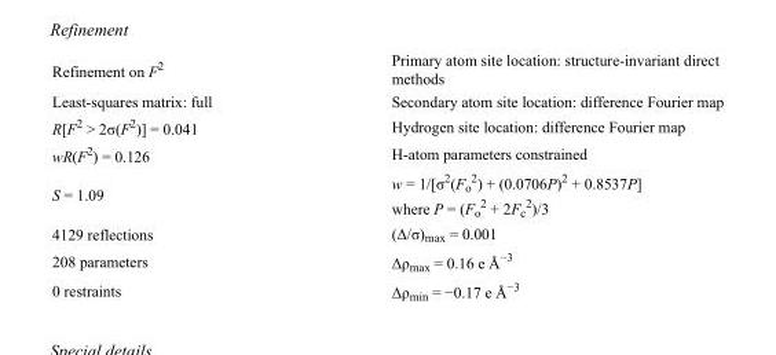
<table><tbody><tr><td>Refinement on F<sup>2</sup></td><td>Primary atom site location: structure-invariant direct methods</td></tr><tr><td>Least-squares matrix: full</td><td>Secondary atom site location: difference Fourier map</td></tr><tr><td>R[F<sup>2</sup> &gt; 2σ(F<sup>2</sup>)] = 0.041</td><td>Hydrogen site location: difference Fourier map</td></tr><tr><td>wR(F<sup>2</sup>) = 0.126</td><td>H-atom parameters constrained</td></tr><tr><td>S = 1.09</td><td>w = 1/[σ<sup>2</sup>(F<sub>o</sub> <sup>2</sup>) + (0.0706P)<sup>2</sup> + 0.8537P] where P = (F<sub>o</sub> <sup>2</sup> + 2F<sub>c</sub> <sup>2</sup>)/3</td></tr><tr><td>4129 reflections</td><td>(Δ/σ)<sub>max</sub> = 0.001</td></tr><tr><td>208 parameters</td><td>Δρ<sub>max</sub> = 0.16 e Å<sup>−3</sup></td></tr><tr><td>0 restraints</td><td>Δρ<sub>min</sub> = −0.17 e Å<sup>−3</sup></td></tr></tbody></table>